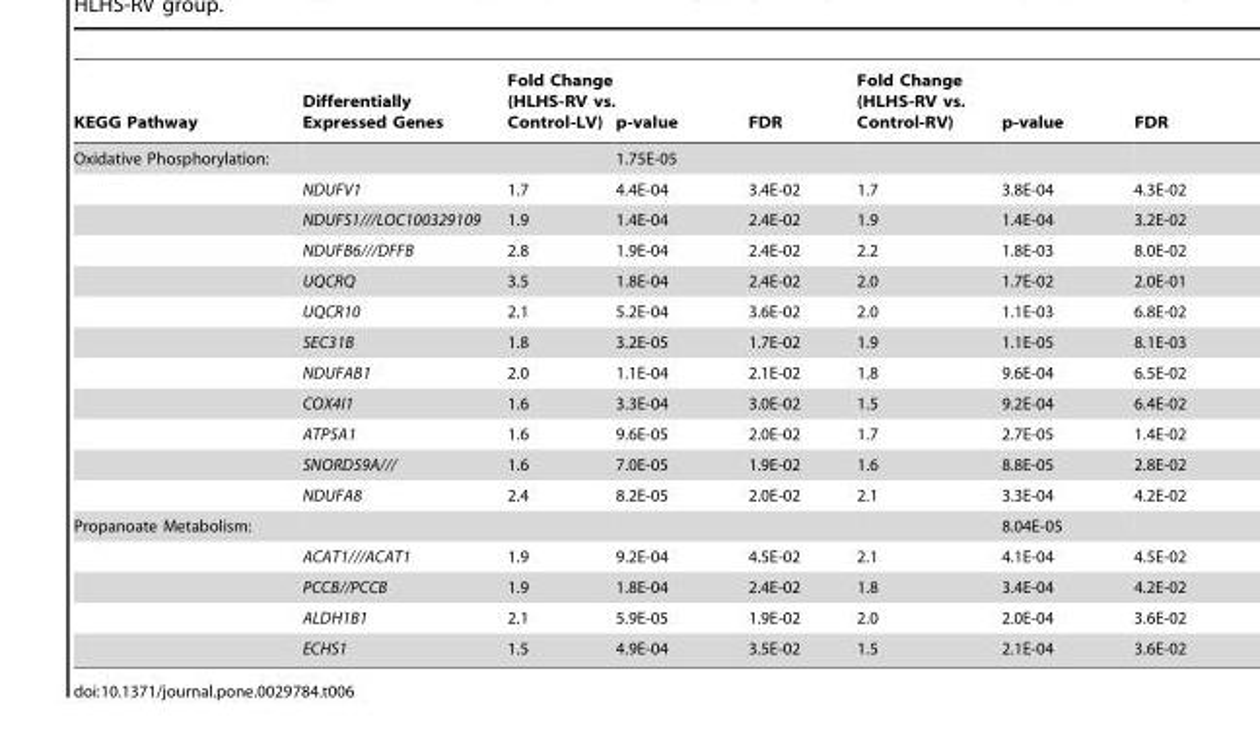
<table><thead><tr><td>KEGG Pathway</td><td>Differentially Expressed Genes</td><td>Fold Change (HLHS-RV vs. Control-LV)</td><td>p-value</td><td>FDR</td><td>Fold Change (HLHS-RV vs. Control-RV)</td><td>p-value</td><td>FDR</td></tr></thead><tbody><tr><td rowspan="12">Oxidative Phosphorylation:</td><td></td><td></td><td>1.75E-05</td><td></td><td></td><td></td><td></td></tr><tr><td>NDUFV1</td><td>1.7</td><td>4.4E-04</td><td>3.4E-02</td><td>1.7</td><td>3.8E-04</td><td>4.3E-02</td></tr><tr><td>NDUFS1///LOC100329109</td><td>1.9</td><td>1.4E-04</td><td>2.4E-02</td><td>1.9</td><td>1.4E-04</td><td>3.2E-02</td></tr><tr><td>NDUFB6///DFFB</td><td>2.8</td><td>1.9E-04</td><td>2.4E-02</td><td>2.2</td><td>1.8E-03</td><td>8.0E-02</td></tr><tr><td>UQCRQ</td><td>3.5</td><td>1.8E-04</td><td>2.4E-02</td><td>2.0</td><td>1.7E-02</td><td>2.0E-01</td></tr><tr><td>UQCR10</td><td>2.1</td><td>5.2E-04</td><td>3.6E-02</td><td>2.0</td><td>1.1E-03</td><td>6.8E-02</td></tr><tr><td>SEC31B</td><td>1.8</td><td>3.2E-05</td><td>1.7E-02</td><td>1.9</td><td>1.1E-05</td><td>8.1E-03</td></tr><tr><td>NDUFAB1</td><td>2.0</td><td>1.1E-04</td><td>2.1E-02</td><td>1.8</td><td>9.6E-04</td><td>6.5E-02</td></tr><tr><td>COX4I1</td><td>1.6</td><td>3.3E-04</td><td>3.0E-02</td><td>1.5</td><td>9.2E-04</td><td>6.4E-02</td></tr><tr><td>ATP5A1</td><td>1.6</td><td>9.6E-05</td><td>2.0E-02</td><td>1.7</td><td>2.7E-05</td><td>1.4E-02</td></tr><tr><td>SNORD59A///</td><td>1.6</td><td>7.0E-05</td><td>1.9E-02</td><td>1.6</td><td>8.8E-05</td><td>2.8E-02</td></tr><tr><td>NDUFA8</td><td>2.4</td><td>8.2E-05</td><td>2.0E-02</td><td>2.1</td><td>3.3E-04</td><td>4.2E-02</td></tr><tr><td rowspan="5">Propanoate Metabolism:</td><td></td><td></td><td></td><td></td><td></td><td>8.04E-05</td><td></td></tr><tr><td>ACAT1///ACAT1</td><td>1.9</td><td>9.2E-04</td><td>4.5E-02</td><td>2.1</td><td>4.1E-04</td><td>4.5E-02</td></tr><tr><td>PCCB//PCCB</td><td>1.9</td><td>1.8E-04</td><td>2.4E-02</td><td>1.8</td><td>3.4E-04</td><td>4.2E-02</td></tr><tr><td>ALDH1B1</td><td>2.1</td><td>5.9E-05</td><td>1.9E-02</td><td>2.0</td><td>2.0E-04</td><td>3.6E-02</td></tr><tr><td>ECHS1</td><td>1.5</td><td>4.9E-04</td><td>3.5E-02</td><td>1.5</td><td>2.1E-04</td><td>3.6E-02</td></tr></tbody></table>